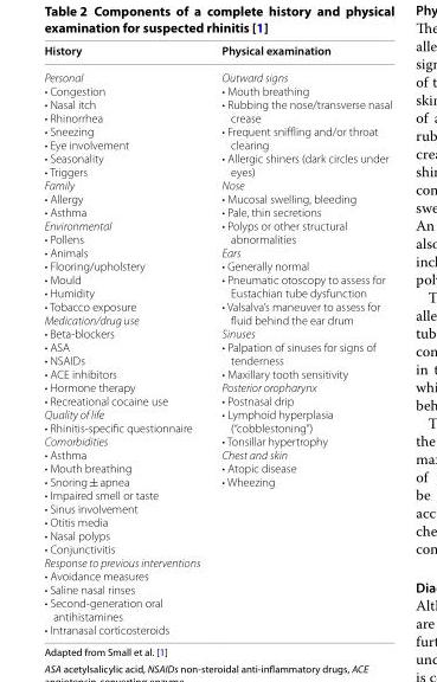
<table><thead><tr><td>History</td><td>Physical examination</td></tr></thead><tbody><tr><td>Personal • Congestion • Nasal itch • Rhinorrhea • Sneezing • Eye involvement • Seasonality • Triggers Family • Allergy • Asthma Environmental • Pollens • Animals • Flooring/upholstery • Mould • Humidity • Tobacco exposure Medication/drug use • Beta-blockers • ASA • NSAIDs • ACE inhibitors • Hormone therapy • Recreational cocaine use Quality of life • Rhinitis-specific questionnaire Comorbidities • Asthma • Mouth breathing • Snoring ± apnea • Impaired smell or taste • Sinus involvement • Otitis media • Nasal polyps • Conjunctivitis Response to previous interventions • Avoidance measures • Saline nasal rinses • Second-generation oral antihistamines • Intranasal corticosteroids</td><td>Outward signs • Mouth breathing • Rubbing the nose/transverse nasal crease • Frequent sniffling and/or throat clearing • Allergic shiners (dark circles under eyes) Nose • Mucosal swelling, bleeding • Pale, thin secretions • Polyps or other structural abnormalities Ears • Generally normal • Pneumatic otoscopy to assess for Eustachian tube dysfunction • Valsalva’s maneuver to assess for fluid behind the ear drum Sinuses • Palpation of sinuses for signs of tenderness • Maxillary tooth sensitivity Posterior oropharynx • Postnasal drip • Lymphoid hyperplasia (“cobblestoning”) • Tonsillar hypertrophy Chest and skin • Atopic disease • Wheezing</td></tr></tbody></table>